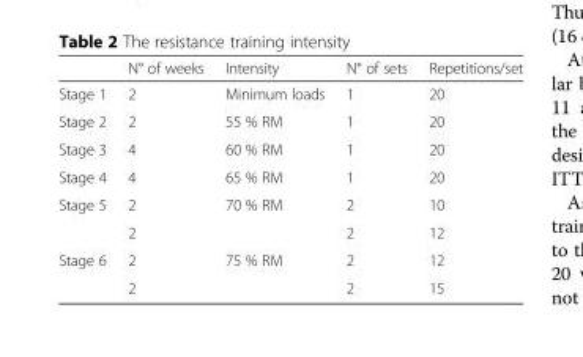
<table><thead><tr><td></td><td>N° of weeks</td><td>Intensity</td><td>N° of sets</td><td>Repetitions/set</td></tr></thead><tbody><tr><td>Stage 1</td><td>2</td><td>Minimum loads</td><td>1</td><td>20</td></tr><tr><td>Stage 2</td><td>2</td><td>55 % RM</td><td>1</td><td>20</td></tr><tr><td>Stage 3</td><td>4</td><td>60 % RM</td><td>1</td><td>20</td></tr><tr><td>Stage 4</td><td>4</td><td>65 % RM</td><td>1</td><td>20</td></tr><tr><td rowspan="2">Stage 5</td><td>2</td><td rowspan="2">70 % RM</td><td>2</td><td>10</td></tr><tr><td>2</td><td>2</td><td>12</td></tr><tr><td rowspan="2">Stage 6</td><td>2</td><td rowspan="2">75 % RM</td><td>2</td><td>12</td></tr><tr><td>2</td><td>2</td><td>15</td></tr></tbody></table>